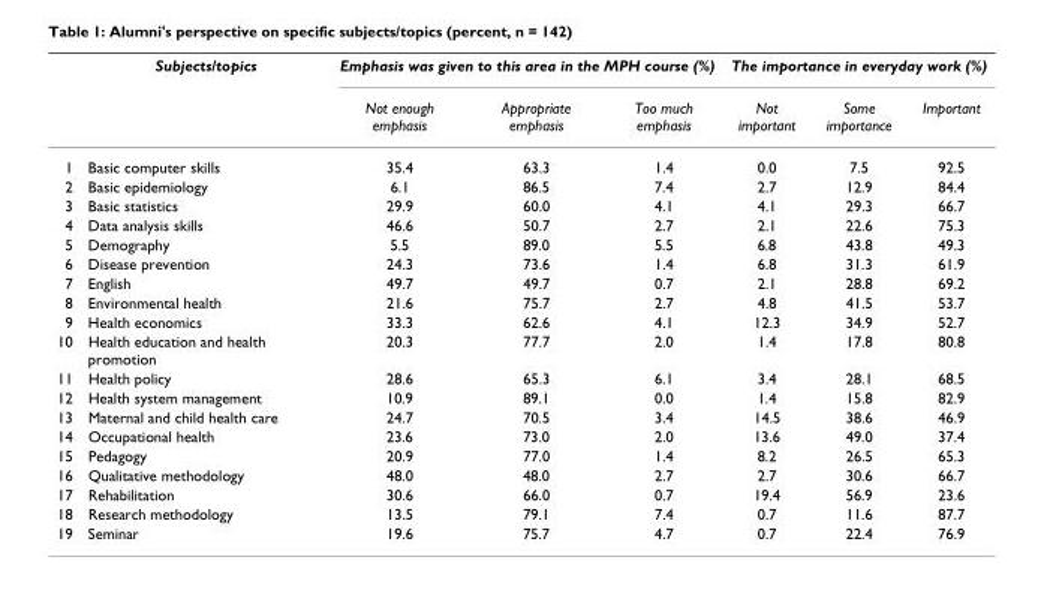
<table><thead><tr><td rowspan="2"></td><td rowspan="2">Subjects/topics</td><td colspan="3">Emphasis was given to this area in the MPH course (%)</td><td colspan="3">The importance in everyday work (%)</td></tr><tr><td>Not enough emphasis</td><td>Appropriate emphasis</td><td>Too much emphasis</td><td>Not important</td><td>Some importance</td><td>Important</td></tr></thead><tbody><tr><td>1</td><td>Basic computer skills</td><td>35.4</td><td>63.3</td><td>1.4</td><td>0.0</td><td>7.5</td><td>92.5</td></tr><tr><td>2</td><td>Basic epidemiology</td><td>6.1</td><td>86.5</td><td>7.4</td><td>2.7</td><td>12.9</td><td>84.4</td></tr><tr><td>3</td><td>Basic statistics</td><td>29.9</td><td>60.0</td><td>4.1</td><td>4.1</td><td>29.3</td><td>66.7</td></tr><tr><td>4</td><td>Data analysis skills</td><td>46.6</td><td>50.7</td><td>2.7</td><td>2.1</td><td>22.6</td><td>75.3</td></tr><tr><td>5</td><td>Demography</td><td>5.5</td><td>89.0</td><td>5.5</td><td>6.8</td><td>43.8</td><td>49.3</td></tr><tr><td>6</td><td>Disease prevention</td><td>24.3</td><td>73.6</td><td>1.4</td><td>6.8</td><td>31.3</td><td>61.9</td></tr><tr><td>7</td><td>English</td><td>49.7</td><td>49.7</td><td>0.7</td><td>2.1</td><td>28.8</td><td>69.2</td></tr><tr><td>8</td><td>Environmental health</td><td>21.6</td><td>75.7</td><td>2.7</td><td>4.8</td><td>41.5</td><td>53.7</td></tr><tr><td>9</td><td>Health economics</td><td>33.3</td><td>62.6</td><td>4.1</td><td>12.3</td><td>34.9</td><td>52.7</td></tr><tr><td>10</td><td>Health education and health promotion</td><td>20.3</td><td>77.7</td><td>2.0</td><td>1.4</td><td>17.8</td><td>80.8</td></tr><tr><td>11</td><td>Health policy</td><td>28.6</td><td>65.3</td><td>6.1</td><td>3.4</td><td>28.1</td><td>68.5</td></tr><tr><td>12</td><td>Health system management</td><td>10.9</td><td>89.1</td><td>0.0</td><td>1.4</td><td>15.8</td><td>82.9</td></tr><tr><td>13</td><td>Maternal and child health care</td><td>24.7</td><td>70.5</td><td>3.4</td><td>14.5</td><td>38.6</td><td>46.9</td></tr><tr><td>14</td><td>Occupational health</td><td>23.6</td><td>73.0</td><td>2.0</td><td>13.6</td><td>49.0</td><td>37.4</td></tr><tr><td>15</td><td>Pedagogy</td><td>20.9</td><td>77.0</td><td>1.4</td><td>8.2</td><td>26.5</td><td>65.3</td></tr><tr><td>16</td><td>Qualitative methodology</td><td>48.0</td><td>48.0</td><td>2.7</td><td>2.7</td><td>30.6</td><td>66.7</td></tr><tr><td>17</td><td>Rehabilitation</td><td>30.6</td><td>66.0</td><td>0.7</td><td>19.4</td><td>56.9</td><td>23.6</td></tr><tr><td>18</td><td>Research methodology</td><td>13.5</td><td>79.1</td><td>7.4</td><td>0.7</td><td>11.6</td><td>87.7</td></tr><tr><td>19</td><td>Seminar</td><td>19.6</td><td>75.7</td><td>4.7</td><td>0.7</td><td>22.4</td><td>76.9</td></tr></tbody></table>